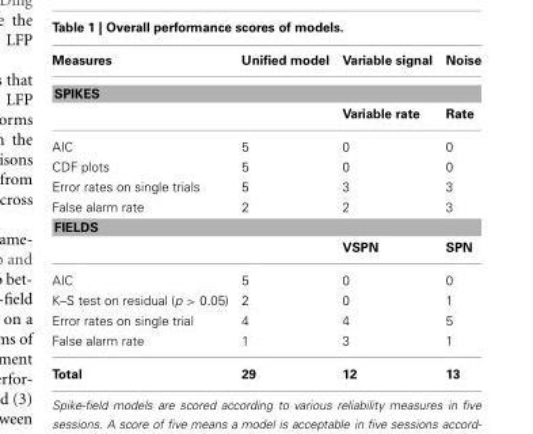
<table><thead><tr><td>Measures</td><td>Unified model</td><td>Variable signal</td><td>Noise</td></tr></thead><tbody><tr><td colspan="4">SPIKES</td></tr><tr><td></td><td></td><td>Variable rate</td><td>Rate</td></tr><tr><td>AIC</td><td>5</td><td>0</td><td>0</td></tr><tr><td>CDF plots</td><td>5</td><td>0</td><td>0</td></tr><tr><td>Error rates on single trials</td><td>5</td><td>3</td><td>3</td></tr><tr><td>False alarm rate</td><td>2</td><td>2</td><td>3</td></tr><tr><td colspan="4">FIELDS</td></tr><tr><td></td><td></td><td>VSPN</td><td>SPN</td></tr><tr><td>AIC</td><td>5</td><td>0</td><td>0</td></tr><tr><td>K–S test on residual (p &gt; 0.05)</td><td>2</td><td>0</td><td>1</td></tr><tr><td>Error rates on single trial</td><td>4</td><td>4</td><td>5</td></tr><tr><td>False alarm rate</td><td>1</td><td>3</td><td>1</td></tr><tr><td>Total</td><td>29</td><td>12</td><td>13</td></tr></tbody></table>